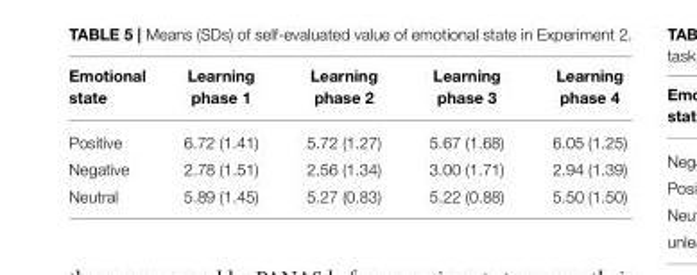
<table><thead><tr><td>Emotional state</td><td>Learning phase 1</td><td>Learning phase 2</td><td>Learning phase 3</td><td>Learning phase 4</td></tr></thead><tbody><tr><td>Positive</td><td>6.72 (1.41)</td><td>5.72 (1.27)</td><td>5.67 (1.68)</td><td>6.05 (1.25)</td></tr><tr><td>Negative</td><td>2.78 (1.51)</td><td>2.56 (1.34)</td><td>3.00 (1.71)</td><td>2.94 (1.39)</td></tr><tr><td>Neutral</td><td>5.89 (1.45)</td><td>5.27 (0.83)</td><td>5.22 (0.88)</td><td>5.50 (1.50)</td></tr></tbody></table>